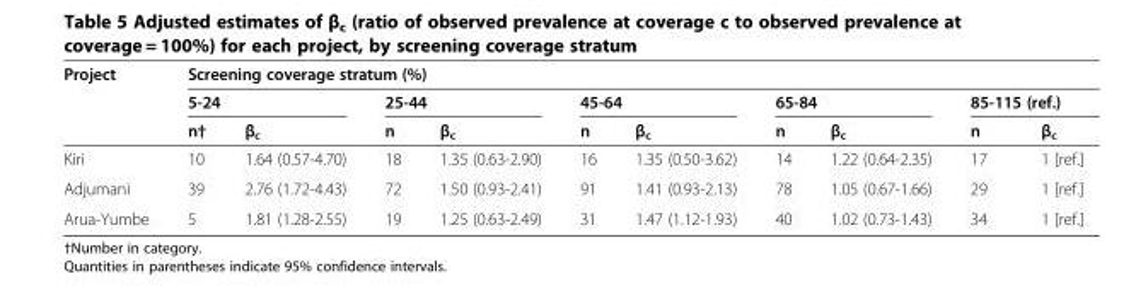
<table><thead><tr><td rowspan="3">Project</td><td colspan="10">Screening coverage stratum (%)</td></tr><tr><td colspan="2">5-24</td><td colspan="2">25-44</td><td colspan="2">45-64</td><td colspan="2">65-84</td><td colspan="2">85-115 (ref.)</td></tr><tr><td>n†</td><td>β<sub>c</sub></td><td>n</td><td>β<sub>c</sub></td><td>n</td><td>β<sub>c</sub></td><td>n</td><td>β<sub>c</sub></td><td>n</td><td>β<sub>c</sub></td></tr></thead><tbody><tr><td>Kiri</td><td>10</td><td>1.64 (0.57-4.70)</td><td>18</td><td>1.35 (0.63-2.90)</td><td>16</td><td>1.35 (0.50-3.62)</td><td>14</td><td>1.22 (0.64-2.35)</td><td>17</td><td>1 [ref.]</td></tr><tr><td>Adjumani</td><td>39</td><td>2.76 (1.72-4.43)</td><td>72</td><td>1.50 (0.93-2.41)</td><td>91</td><td>1.41 (0.93-2.13)</td><td>78</td><td>1.05 (0.67-1.66)</td><td>29</td><td>1 [ref.]</td></tr><tr><td>Arua-Yumbe</td><td>5</td><td>1.81 (1.28-2.55)</td><td>19</td><td>1.25 (0.63-2.49)</td><td>31</td><td>1.47 (1.12-1.93)</td><td>40</td><td>1.02 (0.73-1.43)</td><td>34</td><td>1 [ref.]</td></tr></tbody></table>